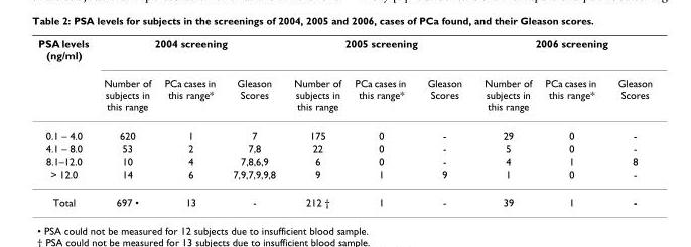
<table><thead><tr><td rowspan="2">PSA levels (ng/ml)</td><td colspan="3">2004 screening</td><td colspan="3">2005 screening</td><td colspan="3">2006 screening</td></tr><tr><td>Number of subjects in this range</td><td>PCa cases in this range*</td><td>Gleason Scores</td><td>Number of subjects in this range</td><td>PCa cases in this range*</td><td>Gleason Scores</td><td>Number of subjects in this range</td><td>PCa cases in this range*</td><td>Gleason Scores</td></tr></thead><tbody><tr><td>0.1 – 4.0</td><td>620</td><td>1</td><td>7</td><td>175</td><td>0</td><td>-</td><td>29</td><td>0</td><td>-</td></tr><tr><td>4.1 – 8.0</td><td>53</td><td>2</td><td>7,8</td><td>22</td><td>0</td><td>-</td><td>5</td><td>0</td><td>-</td></tr><tr><td>8.1–12.0</td><td>10</td><td>4</td><td>7,8,6,9</td><td>6</td><td>0</td><td>-</td><td>4</td><td>1</td><td>8</td></tr><tr><td>&gt; 12.0</td><td>14</td><td>6</td><td>7,9,7,9,9,8</td><td>9</td><td>1</td><td>9</td><td>1</td><td>0</td><td>-</td></tr><tr><td>Total</td><td>697 •</td><td>13</td><td>-</td><td>212 †</td><td>1</td><td>-</td><td>39</td><td>1</td><td>-</td></tr></tbody></table>